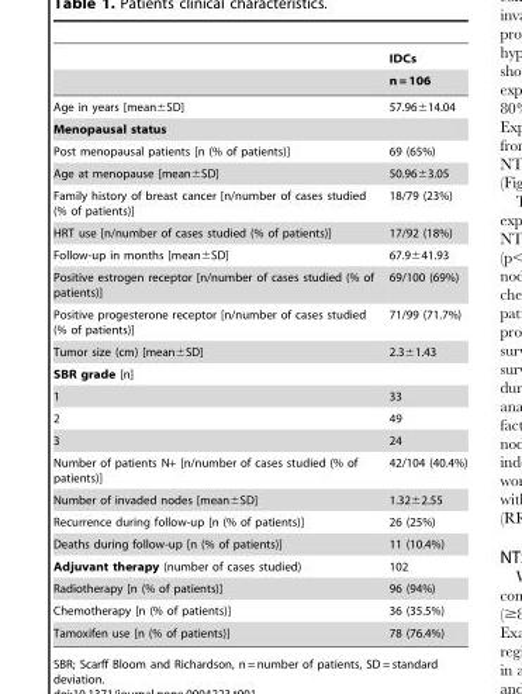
<table><thead><tr><td rowspan="2"></td><td rowspan="2">IDCs n = 106</td></tr><tr></tr></thead><tbody><tr><td>Age in years [mean±SD]</td><td>57.96±14.04</td></tr><tr><td colspan="2">Menopausal status</td></tr><tr><td>Post menopausal patients [n (% of patients)]</td><td>69 (65%)</td></tr><tr><td>Age at menopause [mean±SD]</td><td>50.96±3.05</td></tr><tr><td>Family history of breast cancer [n/number of cases studied (% of patients)]</td><td>18/79 (23%)</td></tr><tr><td>HRT use [n/number of cases studied (% of patients)]</td><td>17/92 (18%)</td></tr><tr><td>Follow-up in months [mean±SD]</td><td>67.9±41.93</td></tr><tr><td>Positive estrogen receptor [n/number of cases studied (% of patients)]</td><td>69/100 (69%)</td></tr><tr><td>Positive progesterone receptor [n/number of cases studied (% of patients)]</td><td>71/99 (71.7%)</td></tr><tr><td>Tumor size (cm) [mean±SD]</td><td>2.3±1.43</td></tr><tr><td colspan="2">SBR grade [n]</td></tr><tr><td>1</td><td>33</td></tr><tr><td>2</td><td>49</td></tr><tr><td>3</td><td>24</td></tr><tr><td>Number of patients N+ [n/number of cases studied (% of patients)]</td><td>42/104 (40.4%)</td></tr><tr><td>Number of invaded nodes [mean±SD]</td><td>1.32±2.55</td></tr><tr><td>Recurrence during follow-up [n (% of patients)]</td><td>26 (25%)</td></tr><tr><td>Deaths during follow-up [n (% of patients)]</td><td>11 (10.4%)</td></tr><tr><td>Adjuvant therapy (number of cases studied)</td><td>102</td></tr><tr><td>Radiotherapy [n (% of patients)]</td><td>96 (94%)</td></tr><tr><td>Chemotherapy [n (% of patients)]</td><td>36 (35.5%)</td></tr><tr><td>Tamoxifen use [n (% of patients)]</td><td>78 (76.4%)</td></tr></tbody></table>